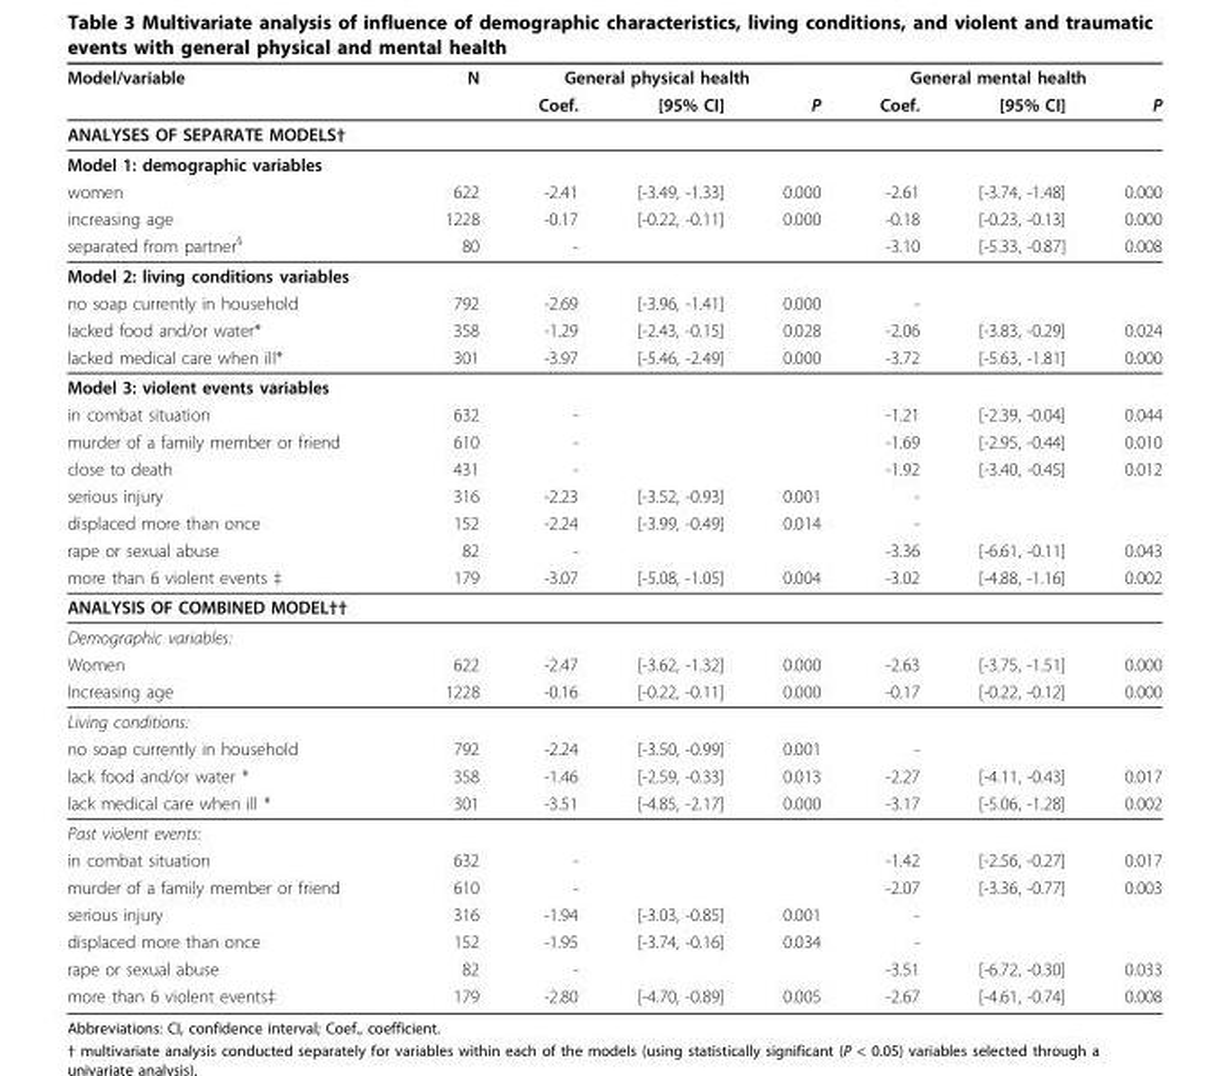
<table><thead><tr><td rowspan="2">Model/variable</td><td rowspan="2">N</td><td colspan="3">General physical health</td><td colspan="3">General mental health</td></tr><tr><td>Coef.</td><td>[95% CI]</td><td>P</td><td>Coef.</td><td>[95% CI]</td><td>P</td></tr></thead><tbody><tr><td colspan="8">ANALYSES OF SEPARATE MODELS†</td></tr><tr><td colspan="8">Model 1: demographic variables</td></tr><tr><td>women</td><td>622</td><td>-2.41</td><td>[-3.49, -1.33]</td><td>0.000</td><td>-2.61</td><td>[-3.74, -1.48]</td><td>0.000</td></tr><tr><td>increasing age</td><td>1228</td><td>-0.17</td><td>[-0.22, -0.11]</td><td>0.000</td><td>-0.18</td><td>[-0.23, -0.13]</td><td>0.000</td></tr><tr><td>separated from partner<sup>§</sup></td><td>80</td><td>-</td><td></td><td></td><td>-3.10</td><td>[-5.33, -0.87]</td><td>0.008</td></tr><tr><td colspan="8">Model 2: living conditions variables</td></tr><tr><td>no soap currently in household</td><td>792</td><td>-2.69</td><td>[-3.96, -1.41]</td><td>0.000</td><td>-</td><td></td><td></td></tr><tr><td>lacked food and/or water*</td><td>358</td><td>-1.29</td><td>[-2.43, -0.15]</td><td>0.028</td><td>-2.06</td><td>[-3.83, -0.29]</td><td>0.024</td></tr><tr><td>lacked medical care when ill*</td><td>301</td><td>-3.97</td><td>[-5.46, -2.49]</td><td>0.000</td><td>-3.72</td><td>[-5.63, -1.81]</td><td>0.000</td></tr><tr><td colspan="8">Model 3: violent events variables</td></tr><tr><td>in combat situation</td><td>632</td><td>-</td><td></td><td></td><td>-1.21</td><td>[-2.39, -0.04]</td><td>0.044</td></tr><tr><td>murder of a family member or friend</td><td>610</td><td>-</td><td></td><td></td><td>-1.69</td><td>[-2.95, -0.44]</td><td>0.010</td></tr><tr><td>close to death</td><td>431</td><td>-</td><td></td><td></td><td>-1.92</td><td>[-3.40, -0.45]</td><td>0.012</td></tr><tr><td>serious injury</td><td>316</td><td>-2.23</td><td>[-3.52, -0.93]</td><td>0.001</td><td>-</td><td></td><td></td></tr><tr><td>displaced more than once</td><td>152</td><td>-2.24</td><td>[-3.99, -0.49]</td><td>0.014</td><td>-</td><td></td><td></td></tr><tr><td>rape or sexual abuse</td><td>82</td><td>-</td><td></td><td></td><td>-3.36</td><td>[-6.61, -0.11]</td><td>0.043</td></tr><tr><td>more than 6 violent events ‡</td><td>179</td><td>-3.07</td><td>[-5.08, -1.05]</td><td>0.004</td><td>-3.02</td><td>[-4.88, -1.16]</td><td>0.002</td></tr><tr><td colspan="8">ANALYSIS OF COMBINED MODEL††</td></tr><tr><td colspan="8">Demographic variables:</td></tr><tr><td>Women</td><td>622</td><td>-2.47</td><td>[-3.62, -1.32]</td><td>0.000</td><td>-2.63</td><td>[-3.75, -1.51]</td><td>0.000</td></tr><tr><td>Increasing age</td><td>1228</td><td>-0.16</td><td>[-0.22, -0.11]</td><td>0.000</td><td>-0.17</td><td>[-0.22, -0.12]</td><td>0.000</td></tr><tr><td colspan="8">Living conditions:</td></tr><tr><td>no soap currently in household</td><td>792</td><td>-2.24</td><td>[-3.50, -0.99]</td><td>0.001</td><td>-</td><td></td><td></td></tr><tr><td>lack food and/or water *</td><td>358</td><td>-1.46</td><td>[-2.59, -0.33]</td><td>0.013</td><td>-2.27</td><td>[-4.11, -0.43]</td><td>0.017</td></tr><tr><td>lack medical care when ill *</td><td>301</td><td>-3.51</td><td>[-4.85, -2.17]</td><td>0.000</td><td>-3.17</td><td>[-5.06, -1.28]</td><td>0.002</td></tr><tr><td colspan="8">Past violent events:</td></tr><tr><td>in combat situation</td><td>632</td><td>-</td><td></td><td></td><td>-1.42</td><td>[-2.56, -0.27]</td><td>0.017</td></tr><tr><td>murder of a family member or friend</td><td>610</td><td>-</td><td></td><td></td><td>-2.07</td><td>[-3.36, -0.77]</td><td>0.003</td></tr><tr><td>serious injury</td><td>316</td><td>-1.94</td><td>[-3.03, -0.85]</td><td>0.001</td><td>-</td><td></td><td></td></tr><tr><td>displaced more than once</td><td>152</td><td>-1.95</td><td>[-3.74, -0.16]</td><td>0.034</td><td>-</td><td></td><td></td></tr><tr><td>rape or sexual abuse</td><td>82</td><td>-</td><td></td><td></td><td>-3.51</td><td>[-6.72, -0.30]</td><td>0.033</td></tr><tr><td>more than 6 violent events‡</td><td>179</td><td>-2.80</td><td>[-4.70, -0.89]</td><td>0.005</td><td>-2.67</td><td>[-4.61, -0.74]</td><td>0.008</td></tr></tbody></table>